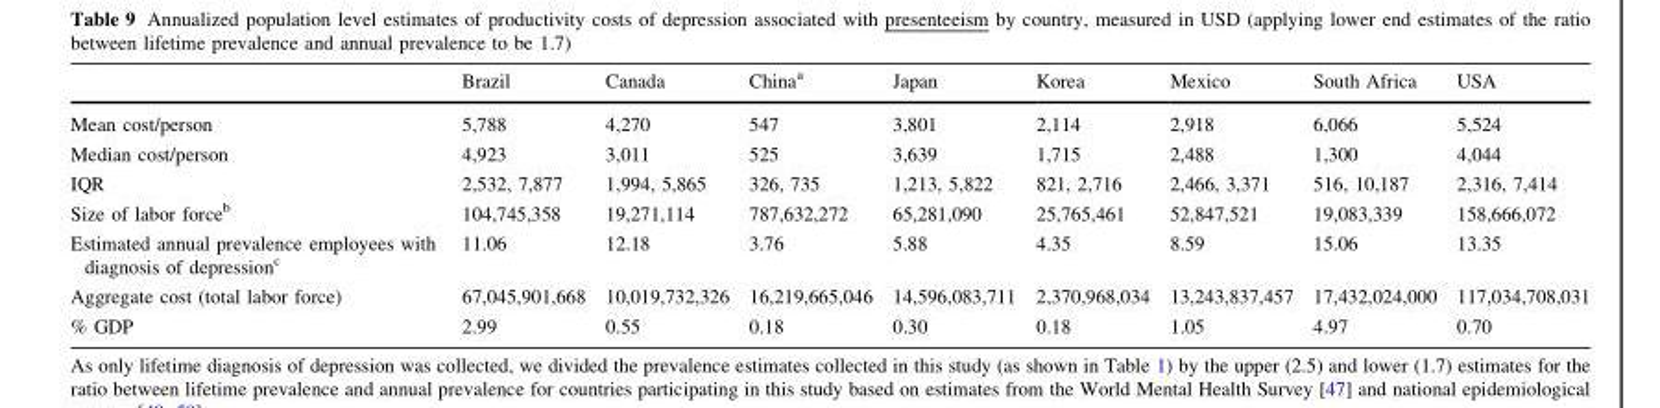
<table><thead><tr><td></td><td>Brazil</td><td>Canada</td><td>China<sup>a</sup></td><td>Japan</td><td>Korea</td><td>Mexico</td><td>South Africa</td><td>USA</td></tr></thead><tbody><tr><td>Mean cost/person</td><td>5,788</td><td>4,270</td><td>547</td><td>3,801</td><td>2,114</td><td>2,918</td><td>6,066</td><td>5,524</td></tr><tr><td>Median cost/person</td><td>4,923</td><td>3,011</td><td>525</td><td>3,639</td><td>1,715</td><td>2,488</td><td>1,300</td><td>4,044</td></tr><tr><td>IQR</td><td>2,532, 7,877</td><td>1,994, 5,865</td><td>326, 735</td><td>1,213, 5,822</td><td>821, 2,716</td><td>2,466, 3,371</td><td>516, 10,187</td><td>2,316, 7,414</td></tr><tr><td>Size of labor force<sup>b</sup></td><td>104,745,358</td><td>19,271,114</td><td>787,632,272</td><td>65,281,090</td><td>25,765,461</td><td>52,847,521</td><td>19,083,339</td><td>158,666,072</td></tr><tr><td>Estimated annual prevalence employees with diagnosis of depression<sup>c</sup></td><td>11.06</td><td>12.18</td><td>3.76</td><td>5.88</td><td>4.35</td><td>8.59</td><td>15.06</td><td>13.35</td></tr><tr><td>Aggregate cost (total labor force)</td><td>67,045,901,668</td><td>10,019,732,326</td><td>16,219,665,046</td><td>14,596,083,711</td><td>2,370,968,034</td><td>13,243,837,457</td><td>17,432,024,000</td><td>117,034,708,031</td></tr><tr><td>% GDP</td><td>2.99</td><td>0.55</td><td>0.18</td><td>0.30</td><td>0.18</td><td>1.05</td><td>4.97</td><td>0.70</td></tr></tbody></table>